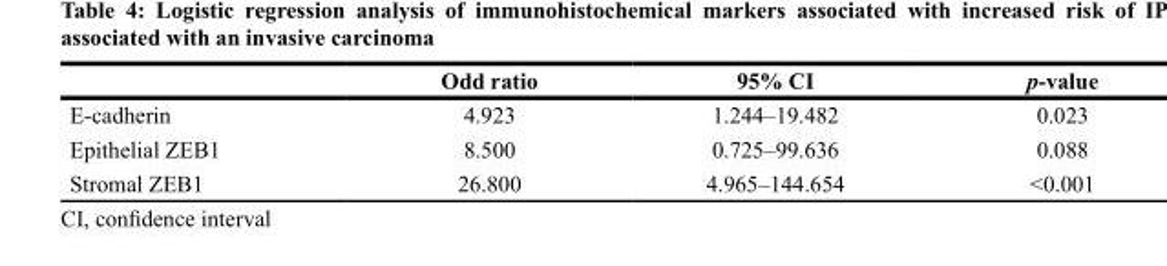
<table><thead><tr><td></td><td>Odd ratio</td><td>95% CI</td><td>p-value</td></tr></thead><tbody><tr><td>E-cadherin</td><td>4.923</td><td>1.244–19.482</td><td>0.023</td></tr><tr><td>Epithelial ZEB1</td><td>8.500</td><td>0.725–99.636</td><td>0.088</td></tr><tr><td>Stromal ZEB1</td><td>26.800</td><td>4.965–144.654</td><td>&lt;0.001</td></tr></tbody></table>